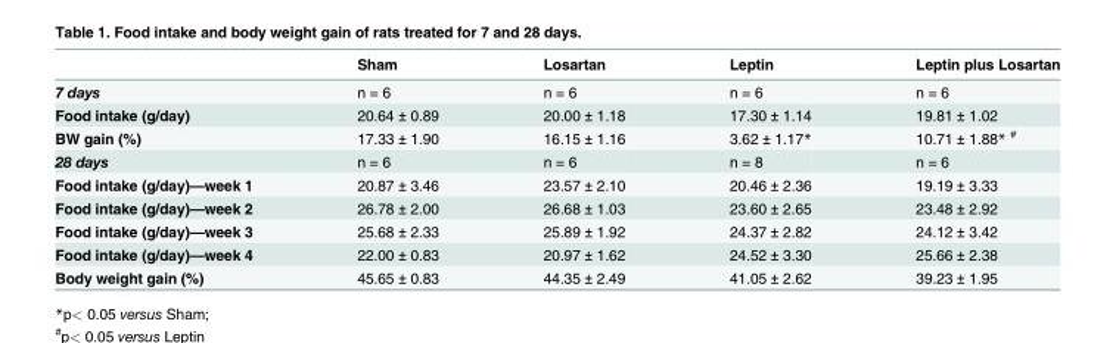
<table><thead><tr><td></td><td>Sham</td><td>Losartan</td><td>Leptin</td><td>Leptin plus Losartan</td></tr></thead><tbody><tr><td>7 days</td><td>n = 6</td><td>n = 6</td><td>n = 6</td><td>n = 6</td></tr><tr><td>Food intake (g/day)</td><td>20.64 ± 0.89</td><td>20.00 ± 1.18</td><td>17.30 ± 1.14</td><td>19.81 ± 1.02</td></tr><tr><td>BW gain (%)</td><td>17.33 ± 1.90</td><td>16.15 ± 1.16</td><td>3.62 ± 1.17*</td><td>10.71 ± 1.88* <sup>#</sup></td></tr><tr><td>28 days</td><td>n = 6</td><td>n = 6</td><td>n = 8</td><td>n = 6</td></tr><tr><td>Food intake (g/day)—week 1</td><td>20.87 ± 3.46</td><td>23.57 ± 2.10</td><td>20.46 ± 2.36</td><td>19.19 ± 3.33</td></tr><tr><td>Food intake (g/day)—week 2</td><td>26.78 ± 2.00</td><td>26.68 ± 1.03</td><td>23.60 ± 2.65</td><td>23.48 ± 2.92</td></tr><tr><td>Food intake (g/day)—week 3</td><td>25.68 ± 2.33</td><td>25.89 ± 1.92</td><td>24.37 ± 2.82</td><td>24.12 ± 3.42</td></tr><tr><td>Food intake (g/day)—week 4</td><td>22.00 ± 0.83</td><td>20.97 ± 1.62</td><td>24.52 ± 3.30</td><td>25.66 ± 2.38</td></tr><tr><td>Body weight gain (%)</td><td>45.65 ± 0.83</td><td>44.35 ± 2.49</td><td>41.05 ± 2.62</td><td>39.23 ± 1.95</td></tr></tbody></table>